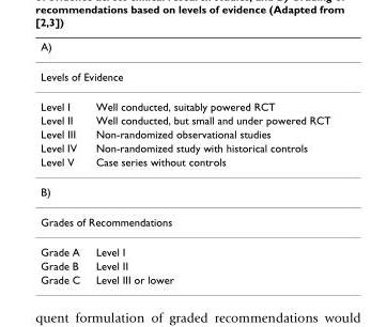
<table><thead><tr><td>A)</td><td></td></tr></thead><tbody><tr><td colspan="2">Levels of Evidence</td></tr><tr><td>Level I</td><td>Well conducted, suitably powered RCT</td></tr><tr><td>Level II</td><td>Well conducted, but small and under powered RCT</td></tr><tr><td>Level III</td><td>Non-randomized observational studies</td></tr><tr><td>Level IV</td><td>Non-randomized study with historical controls</td></tr><tr><td>Level V</td><td>Case series without controls</td></tr><tr><td colspan="2">B)</td></tr><tr><td colspan="2">Grades of Recommendations</td></tr><tr><td>Grade A</td><td>Level I</td></tr><tr><td>Grade B</td><td>Level II</td></tr><tr><td>Grade C</td><td>Level III or lower</td></tr></tbody></table>